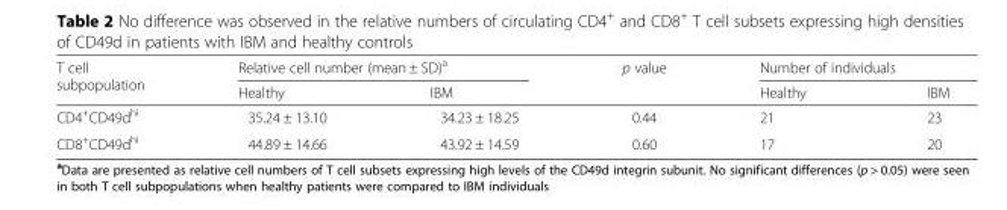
<table><thead><tr><td rowspan="2">T cell subpopulation</td><td colspan="2">Relative cell number (mean ± SD)<sup>a</sup></td><td rowspan="2">p value</td><td colspan="2">Number of individuals</td></tr><tr><td>Healthy</td><td>IBM</td><td>Healthy</td><td>IBM</td></tr></thead><tbody><tr><td>CD4<sup>+</sup>CD49d<sup>hi</sup></td><td>35.24 ± 13.10</td><td>34.23 ± 18.25</td><td>0.44</td><td>21</td><td>23</td></tr><tr><td>CD8<sup>+</sup>CD49d<sup>hi</sup></td><td>44.89 ± 14.66</td><td>43.92 ± 14.59</td><td>0.60</td><td>17</td><td>20</td></tr></tbody></table>